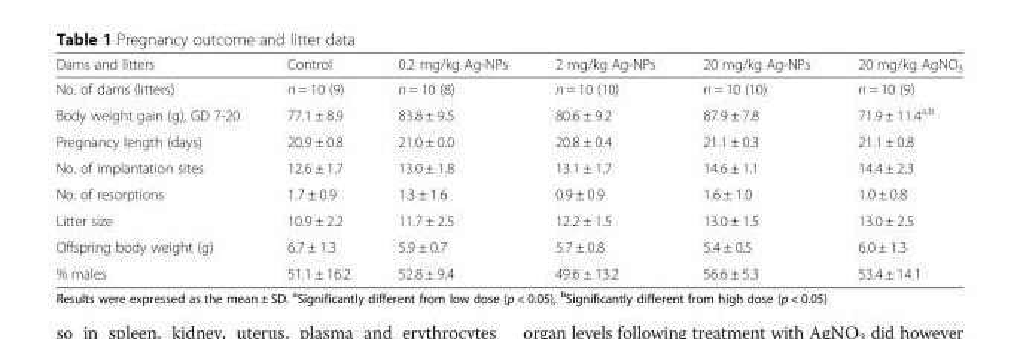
<table><thead><tr><td>Dams and litters</td><td>Control</td><td>0.2 mg/kg Ag-NPs</td><td>2 mg/kg Ag-NPs</td><td>20 mg/kg Ag-NPs</td><td>20 mg/kg AgNO<sub>3</sub></td></tr></thead><tbody><tr><td>No. of dams (litters)</td><td>n = 10 (9)</td><td>n = 10 (8)</td><td>n = 10 (10)</td><td>n = 10 (10)</td><td>n = 10 (9)</td></tr><tr><td>Body weight gain (g), GD 7-20</td><td>77.1 ± 8.9</td><td>83.8 ± 9.5</td><td>80.6 ± 9.2</td><td>87.9 ± 7.8</td><td>71.9 ± 11.4<sup>a,b</sup></td></tr><tr><td>Pregnancy length (days)</td><td>20.9 ± 0.8</td><td>21.0 ± 0.0</td><td>20.8 ± 0.4</td><td>21.1 ± 0.3</td><td>21.1 ± 0.8</td></tr><tr><td>No. of implantation sites</td><td>12.6 ± 1.7</td><td>13.0 ± 1.8</td><td>13.1 ± 1.7</td><td>14.6 ± 1.1</td><td>14.4 ± 2.3</td></tr><tr><td>No. of resorptions</td><td>1.7 ± 0.9</td><td>1.3 ± 1.6</td><td>0.9 ± 0.9</td><td>1.6 ± 1.0</td><td>1.0 ± 0.8</td></tr><tr><td>Litter size</td><td>10.9 ± 2.2</td><td>11.7 ± 2.5</td><td>12.2 ± 1.5</td><td>13.0 ± 1.5</td><td>13.0 ± 2.5</td></tr><tr><td>Offspring body weight (g)</td><td>6.7 ± 1.3</td><td>5.9 ± 0.7</td><td>5.7 ± 0.8</td><td>5.4 ± 0.5</td><td>6.0 ± 1.3</td></tr><tr><td>% males</td><td>51.1 ± 16.2</td><td>52.8 ± 9.4</td><td>49.6 ± 13.2</td><td>56.6 ± 5.3</td><td>53.4 ± 14.1</td></tr></tbody></table>